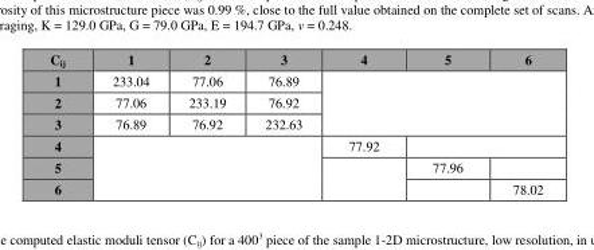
<table><thead><tr><td>C<sub>ij</sub></td><td>1</td><td>2</td><td>3</td><td>4</td><td>5</td><td>6</td></tr></thead><tbody><tr><td>1</td><td>233.04</td><td>77.06</td><td>76.89</td><td rowspan="3" colspan="3"></td></tr><tr><td>2</td><td>77.06</td><td>233.19</td><td>76.92</td></tr><tr><td>3</td><td>76.89</td><td>76.92</td><td>232.63</td></tr><tr><td>4</td><td rowspan="3" colspan="3"></td><td>77.92</td><td colspan="2"></td></tr><tr><td>5</td><td rowspan="2"></td><td>77.96</td><td></td></tr><tr><td>6</td><td></td><td>78.02</td></tr></tbody></table>